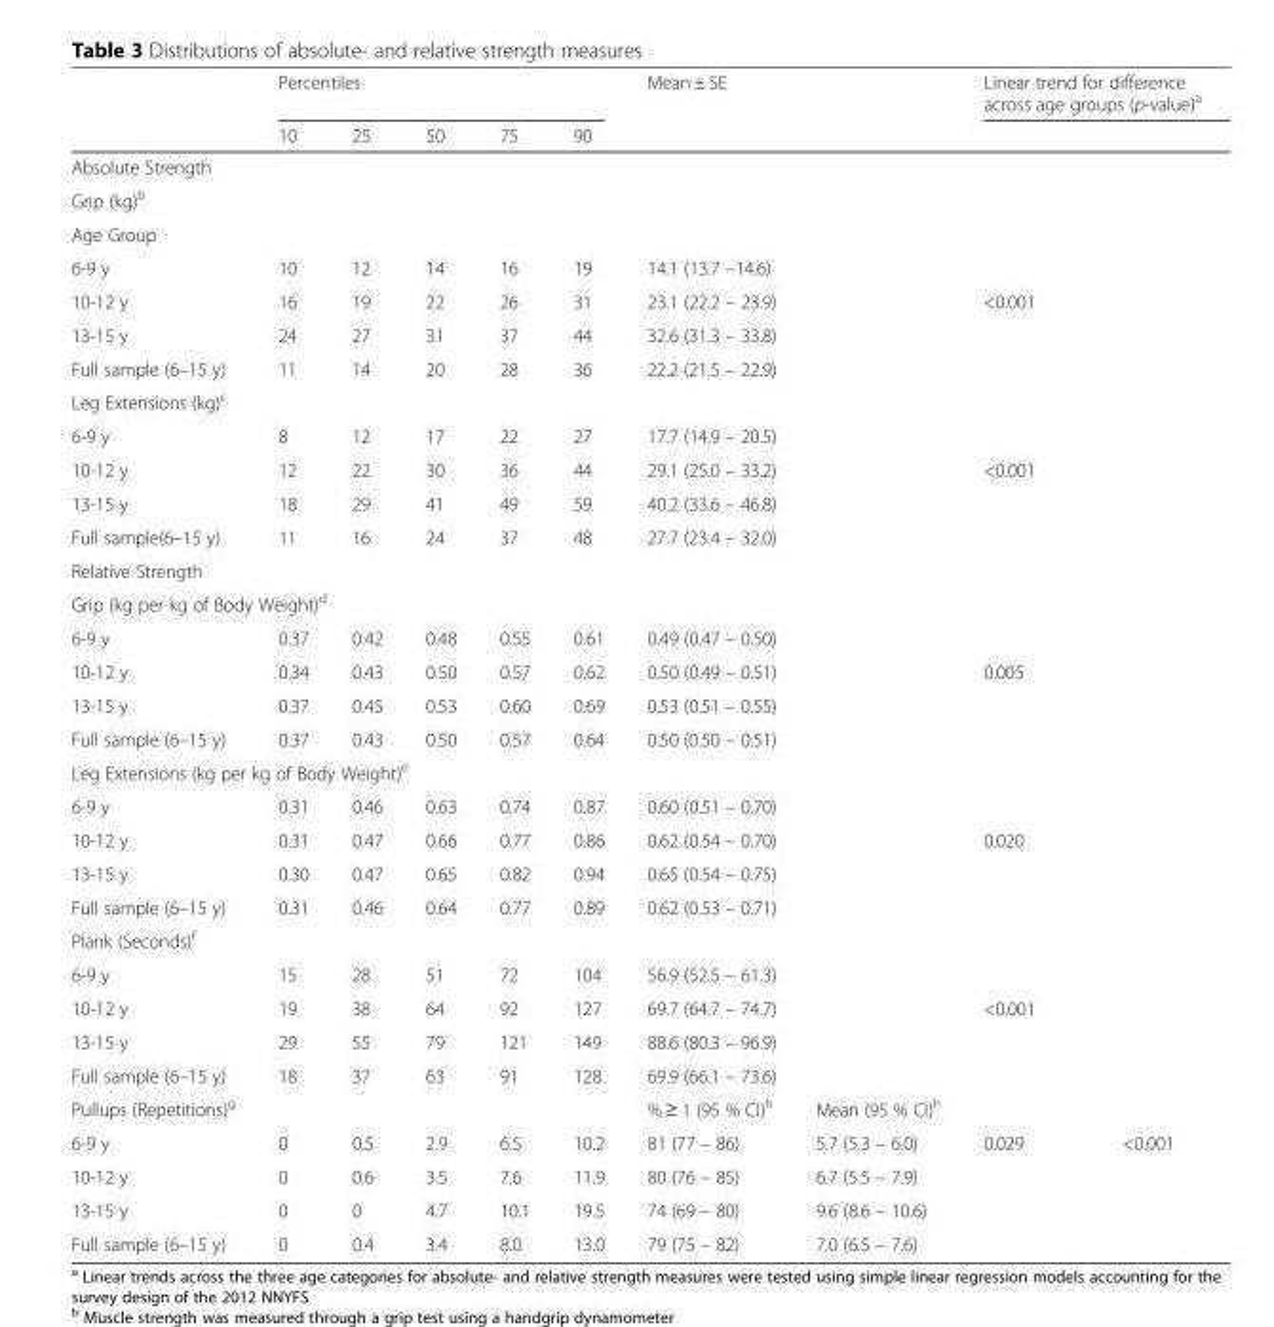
<table><thead><tr><td rowspan="2"></td><td colspan="5">Percentiles</td><td rowspan="2" colspan="2">Mean ± SE</td><td colspan="2">Linear trend for difference across age groups (p-value)<sup>a</sup></td></tr><tr><td>10</td><td>25</td><td>50</td><td>75</td><td>90</td><td></td><td></td></tr></thead><tbody><tr><td colspan="10">Absolute Strength</td></tr><tr><td colspan="10">Grip (kg)<sup>b</sup></td></tr><tr><td colspan="10">Age Group</td></tr><tr><td>6-9 y</td><td>10</td><td>12</td><td>14</td><td>16</td><td>19</td><td colspan="2">14.1 (13.7 –14.6)</td><td rowspan="3" colspan="2">&lt;0.001</td></tr><tr><td>10-12 y</td><td>16</td><td>19</td><td>22</td><td>26</td><td>31</td><td colspan="2">23.1 (22.2 – 23.9)</td></tr><tr><td>13-15 y</td><td>24</td><td>27</td><td>31</td><td>37</td><td>44</td><td colspan="2">32.6 (31.3 – 33.8)</td></tr><tr><td>Full sample (6–15 y)</td><td>11</td><td>14</td><td>20</td><td>28</td><td>36</td><td colspan="2">22.2 (21.5 – 22.9)</td><td colspan="2"></td></tr><tr><td colspan="10">Leg Extensions (kg)<sup>c</sup></td></tr><tr><td>6-9 y</td><td>8</td><td>12</td><td>17</td><td>22</td><td>27</td><td colspan="2">17.7 (14.9 – 20.5)</td><td colspan="2"></td></tr><tr><td>10-12 y</td><td>12</td><td>22</td><td>30</td><td>36</td><td>44</td><td colspan="2">29.1 (25.0 – 33.2)</td><td colspan="2">&lt;0.001</td></tr><tr><td>13-15 y</td><td>18</td><td>29</td><td>41</td><td>49</td><td>59</td><td colspan="2">40.2 (33.6 – 46.8)</td><td colspan="2"></td></tr><tr><td>Full sample(6–15 y)</td><td>11</td><td>16</td><td>24</td><td>37</td><td>48</td><td colspan="2">27.7 (23.4 – 32.0)</td><td colspan="2"></td></tr><tr><td colspan="10">Relative Strength</td></tr><tr><td colspan="10">Grip (kg per kg of Body Weight)<sup>d</sup></td></tr><tr><td>6-9 y</td><td>0.37</td><td>0.42</td><td>0.48</td><td>0.55</td><td>0.61</td><td colspan="2">0.49 (0.47 – 0.50)</td><td colspan="2"></td></tr><tr><td>10-12 y</td><td>0.34</td><td>0.43</td><td>0.50</td><td>0.57</td><td>0.62</td><td colspan="2">0.50 (0.49 – 0.51)</td><td colspan="2">0.005</td></tr><tr><td>13-15 y</td><td>0.37</td><td>0.45</td><td>0.53</td><td>0.60</td><td>0.69</td><td colspan="2">0.53 (0.51 – 0.55)</td><td colspan="2"></td></tr><tr><td>Full sample (6–15 y)</td><td>0.37</td><td>0.43</td><td>0.50</td><td>0.57</td><td>0.64</td><td colspan="2">0.50 (0.50 – 0.51)</td><td colspan="2"></td></tr><tr><td colspan="10">Leg Extensions (kg per kg of Body Weight)<sup>e</sup></td></tr><tr><td>6-9 y</td><td>0.31</td><td>0.46</td><td>0.63</td><td>0.74</td><td>0.87</td><td colspan="2">0.60 (0.51 – 0.70)</td><td colspan="2"></td></tr><tr><td>10-12 y</td><td>0.31</td><td>0.47</td><td>0.66</td><td>0.77</td><td>0.86</td><td colspan="2">0.62 (0.54 – 0.70)</td><td colspan="2">0.020</td></tr><tr><td>13-15 y</td><td>0.30</td><td>0.47</td><td>0.65</td><td>0.82</td><td>0.94</td><td colspan="2">0.65 (0.54 – 0.75)</td><td colspan="2"></td></tr><tr><td>Full sample (6–15 y)</td><td>0.31</td><td>0.46</td><td>0.64</td><td>0.77</td><td>0.89</td><td colspan="2">0.62 (0.53 – 0.71)</td><td colspan="2"></td></tr><tr><td colspan="10">Plank (Seconds)<sup>f</sup></td></tr><tr><td>6-9 y</td><td>15</td><td>28</td><td>51</td><td>72</td><td>104</td><td colspan="2">56.9 (52.5 – 61.3)</td><td colspan="2"></td></tr><tr><td>10-12 y</td><td>19</td><td>38</td><td>64</td><td>92</td><td>127</td><td colspan="2">69.7 (64.7 – 74.7)</td><td colspan="2">&lt;0.001</td></tr><tr><td>13-15 y</td><td>29</td><td>55</td><td>79</td><td>121</td><td>149</td><td colspan="2">88.6 (80.3 – 96.9)</td><td colspan="2"></td></tr><tr><td>Full sample (6–15 y)</td><td>18</td><td>37</td><td>63</td><td>91</td><td>128</td><td colspan="2">69.9 (66.1 – 73.6)</td><td colspan="2"></td></tr><tr><td>Pullups (Repetitions)<sup>g</sup></td><td></td><td></td><td></td><td></td><td></td><td>% ≥ 1 (95 % CI)<sup>h</sup></td><td>Mean (95 % CI)<sup>h</sup></td><td></td><td></td></tr><tr><td>6-9 y</td><td>0</td><td>0.5</td><td>2.9</td><td>6.5</td><td>10.2</td><td>81 (77 – 86)</td><td>5.7 (5.3 – 6.0)</td><td rowspan="3">0.029</td><td rowspan="3">&lt;0.001</td></tr><tr><td>10-12 y</td><td>0</td><td>0.6</td><td>3.5</td><td>7.6</td><td>11.9</td><td>80 (76 – 85)</td><td>6.7 (5.5 – 7.9)</td></tr><tr><td>13-15 y</td><td>0</td><td>0</td><td>4.7</td><td>10.1</td><td>19.5</td><td>74 (69 – 80)</td><td>9.6 (8.6 – 10.6)</td></tr><tr><td>Full sample (6–15 y)</td><td>0</td><td>0.4</td><td>3.4</td><td>8.0</td><td>13.0</td><td>79 (75 – 82)</td><td>7.0 (6.5 – 7.6)</td><td></td><td></td></tr></tbody></table>